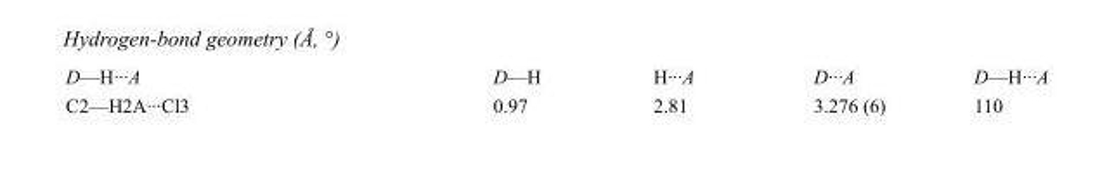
<table><tbody><tr><td>D—H···A</td><td>D—H</td><td>H···A</td><td>D···A</td><td>D—H···A</td></tr><tr><td>C2—H2A···Cl3</td><td>0.97</td><td>2.81</td><td>3.276 (6)</td><td>110</td></tr></tbody></table>